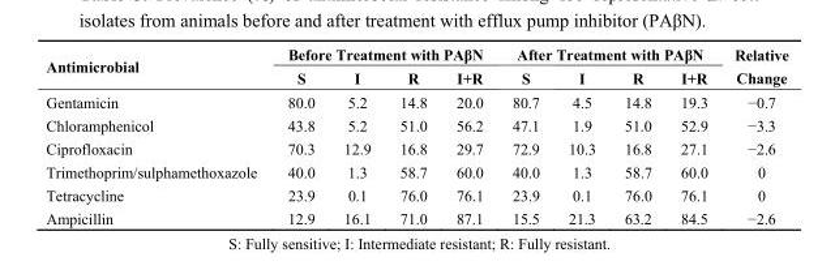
<table><thead><tr><td rowspan="2">Antimicrobial</td><td colspan="4">Before Treatment with PAβN</td><td colspan="4">After Treatment with PAβN</td><td rowspan="2">Relative Change</td></tr><tr><td>S</td><td>I</td><td>R</td><td>I+R</td><td>S</td><td>I</td><td>R</td><td>I+R</td></tr></thead><tbody><tr><td>Gentamicin</td><td>80.0</td><td>5.2</td><td>14.8</td><td>20.0</td><td>80.7</td><td>4.5</td><td>14.8</td><td>19.3</td><td>−0.7</td></tr><tr><td>Chloramphenicol</td><td>43.8</td><td>5.2</td><td>51.0</td><td>56.2</td><td>47.1</td><td>1.9</td><td>51.0</td><td>52.9</td><td>−3.3</td></tr><tr><td>Ciprofloxacin</td><td>70.3</td><td>12.9</td><td>16.8</td><td>29.7</td><td>72.9</td><td>10.3</td><td>16.8</td><td>27.1</td><td>−2.6</td></tr><tr><td>Trimethoprim/sulphamethoxazole</td><td>40.0</td><td>1.3</td><td>58.7</td><td>60.0</td><td>40.0</td><td>1.3</td><td>58.7</td><td>60.0</td><td>0</td></tr><tr><td>Tetracycline</td><td>23.9</td><td>0.1</td><td>76.0</td><td>76.1</td><td>23.9</td><td>0.1</td><td>76.0</td><td>76.1</td><td>0</td></tr><tr><td>Ampicillin</td><td>12.9</td><td>16.1</td><td>71.0</td><td>87.1</td><td>15.5</td><td>21.3</td><td>63.2</td><td>84.5</td><td>−2.6</td></tr></tbody></table>